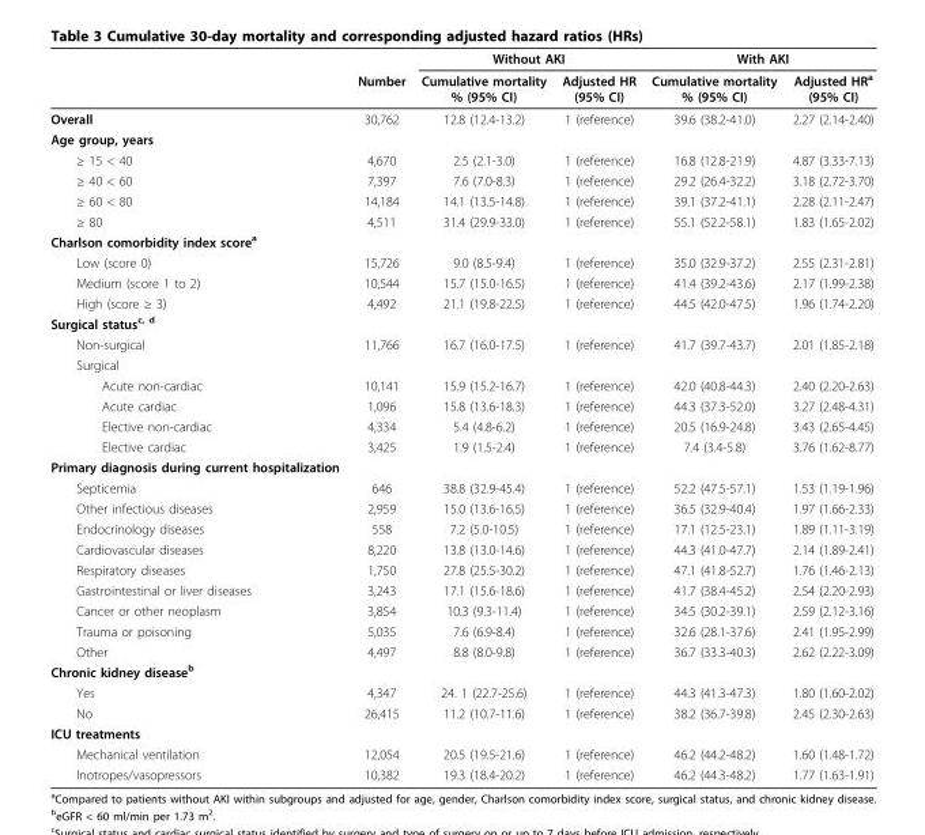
<table><thead><tr><td rowspan="2"></td><td rowspan="2">Number</td><td colspan="2">Without AKI</td><td colspan="2">With AKI</td></tr><tr><td>Cumulative mortality % (95% CI)</td><td>Adjusted HR (95% CI)</td><td>Cumulative mortality % (95% CI)</td><td>Adjusted HR<sup>a</sup> (95% CI)</td></tr></thead><tbody><tr><td>Overall</td><td>30,762</td><td>12.8 (12.4-13.2)</td><td>1 (reference)</td><td>39.6 (38.2-41.0)</td><td>2.27 (2.14-2.40)</td></tr><tr><td colspan="6">Age group, years</td></tr><tr><td>≥ 15 &lt; 40</td><td>4,670</td><td>2.5 (2.1-3.0)</td><td>1 (reference)</td><td>16.8 (12.8-21.9)</td><td>4.87 (3.33-7.13)</td></tr><tr><td>≥ 40 &lt; 60</td><td>7,397</td><td>7.6 (7.0-8.3)</td><td>1 (reference)</td><td>29.2 (26.4-32.2)</td><td>3.18 (2.72-3.70)</td></tr><tr><td>≥ 60 &lt; 80</td><td>14,184</td><td>14.1 (13.5-14.8)</td><td>1 (reference)</td><td>39.1 (37.2-41.1)</td><td>2.28 (2.11-2.47)</td></tr><tr><td>≥ 80</td><td>4,511</td><td>31.4 (29.9-33.0)</td><td>1 (reference)</td><td>55.1 (52.2-58.1)</td><td>1.83 (1.65-2.02)</td></tr><tr><td colspan="6">Charlson comorbidity index score<sup>a</sup></td></tr><tr><td>Low (score 0)</td><td>15,726</td><td>9.0 (8.5-9.4)</td><td>1 (reference)</td><td>35.0 (32.9-37.2)</td><td>2.55 (2.31-2.81)</td></tr><tr><td>Medium (score 1 to 2)</td><td>10,544</td><td>15.7 (15.0-16.5)</td><td>1 (reference)</td><td>41.4 (39.2-43.6)</td><td>2.17 (1.99-2.38)</td></tr><tr><td>High (score ≥ 3)</td><td>4,492</td><td>21.1 (19.8-22.5)</td><td>1 (reference)</td><td>44.5 (42.0-47.5)</td><td>1.96 (1.74-2.20)</td></tr><tr><td colspan="6">Surgical status<sup>c, d</sup></td></tr><tr><td>Non-surgical</td><td>11,766</td><td>16.7 (16.0-17.5)</td><td>1 (reference)</td><td>41.7 (39.7-43.7)</td><td>2.01 (1.85-2.18)</td></tr><tr><td colspan="6">Surgical</td></tr><tr><td>Acute non-cardiac</td><td>10,141</td><td>15.9 (15.2-16.7)</td><td>1 (reference)</td><td>42.0 (40.8-44.3)</td><td>2.40 (2.20-2.63)</td></tr><tr><td>Acute cardiac</td><td>1,096</td><td>15.8 (13.6-18.3)</td><td>1 (reference)</td><td>44.3 (37.3-52.0)</td><td>3.27 (2.48-4.31)</td></tr><tr><td>Elective non-cardiac</td><td>4,334</td><td>5.4 (4.8-6.2)</td><td>1 (reference)</td><td>20.5 (16.9-24.8)</td><td>3.43 (2.65-4.45)</td></tr><tr><td>Elective cardiac</td><td>3,425</td><td>1.9 (1.5-2.4)</td><td>1 (reference)</td><td>7.4 (3.4-5.8)</td><td>3.76 (1.62-8.77)</td></tr><tr><td colspan="6">Primary diagnosis during current hospitalization</td></tr><tr><td>Septicemia</td><td>646</td><td>38.8 (32.9-45.4)</td><td>1 (reference)</td><td>52.2 (47.5-57.1)</td><td>1.53 (1.19-1.96)</td></tr><tr><td>Other infectious diseases</td><td>2,959</td><td>15.0 (13.6-16.5)</td><td>1 (reference)</td><td>36.5 (32.9-40.4)</td><td>1.97 (1.66-2.33)</td></tr><tr><td>Endocrinology diseases</td><td>558</td><td>7.2 (5.0-10.5)</td><td>1 (reference)</td><td>17.1 (12.5-23.1)</td><td>1.89 (1.11-3.19)</td></tr><tr><td>Cardiovascular diseases</td><td>8,220</td><td>13.8 (13.0-14.6)</td><td>1 (reference)</td><td>44.3 (41.0-47.7)</td><td>2.14 (1.89-2.41)</td></tr><tr><td>Respiratory diseases</td><td>1,750</td><td>27.8 (25.5-30.2)</td><td>1 (reference)</td><td>47.1 (41.8-52.7)</td><td>1.76 (1.46-2.13)</td></tr><tr><td>Gastrointestinal or liver diseases</td><td>3,243</td><td>17.1 (15.6-18.6)</td><td>1 (reference)</td><td>41.7 (38.4-45.2)</td><td>2.54 (2.20-2.93)</td></tr><tr><td>Cancer or other neoplasm</td><td>3,854</td><td>10.3 (9.3-11.4)</td><td>1 (reference)</td><td>34.5 (30.2-39.1)</td><td>2.59 (2.12-3.16)</td></tr><tr><td>Trauma or poisoning</td><td>5,035</td><td>7.6 (6.9-8.4)</td><td>1 (reference)</td><td>32.6 (28.1-37.6)</td><td>2.41 (1.95-2.99)</td></tr><tr><td>Other</td><td>4,497</td><td>8.8 (8.0-9.8)</td><td>1 (reference)</td><td>36.7 (33.3-40.3)</td><td>2.62 (2.22-3.09)</td></tr><tr><td colspan="6">Chronic kidney disease<sup>b</sup></td></tr><tr><td>Yes</td><td>4,347</td><td>24. 1 (22.7-25.6)</td><td>1 (reference)</td><td>44.3 (41.3-47.3)</td><td>1.80 (1.60-2.02)</td></tr><tr><td>No</td><td>26,415</td><td>11.2 (10.7-11.6)</td><td>1 (reference)</td><td>38.2 (36.7-39.8)</td><td>2.45 (2.30-2.63)</td></tr><tr><td colspan="6">ICU treatments</td></tr><tr><td>Mechanical ventilation</td><td>12,054</td><td>20.5 (19.5-21.6)</td><td>1 (reference)</td><td>46.2 (44.2-48.2)</td><td>1.60 (1.48-1.72)</td></tr><tr><td>Inotropes/vasopressors</td><td>10,382</td><td>19.3 (18.4-20.2)</td><td>1 (reference)</td><td>46.2 (44.3-48.2)</td><td>1.77 (1.63-1.91)</td></tr></tbody></table>